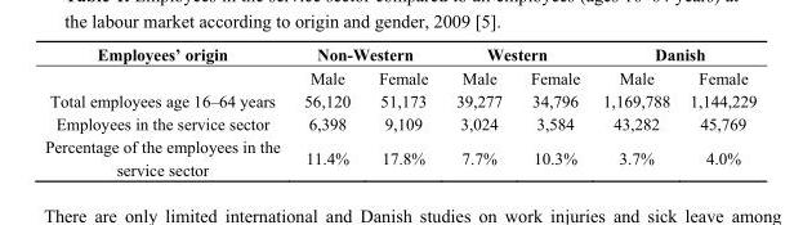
<table><thead><tr><td rowspan="2">Employees’ origin</td><td colspan="2">Non-Western</td><td colspan="2">Western</td><td colspan="2">Danish</td></tr><tr><td>Male</td><td>Female</td><td>Male</td><td>Female</td><td>Male</td><td>Female</td></tr></thead><tbody><tr><td>Total employees age 16–64 years</td><td>56,120</td><td>51,173</td><td>39,277</td><td>34,796</td><td>1,169,788</td><td>1,144,229</td></tr><tr><td>Employees in the service sector</td><td>6,398</td><td>9,109</td><td>3,024</td><td>3,584</td><td>43,282</td><td>45,769</td></tr><tr><td>Percentage of the employees in the service sector</td><td>11.4%</td><td>17.8%</td><td>7.7%</td><td>10.3%</td><td>3.7%</td><td>4.0%</td></tr></tbody></table>